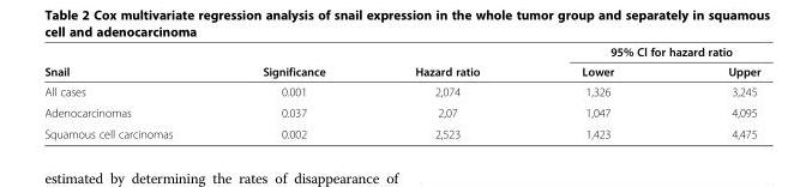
<table><thead><tr><td rowspan="2">Snail</td><td rowspan="2">Significance</td><td rowspan="2">Hazard ratio</td><td colspan="2">95% Cl for hazard ratio</td></tr><tr><td>Lower</td><td>Upper</td></tr></thead><tbody><tr><td>All cases</td><td>0.001</td><td>2,074</td><td>1,326</td><td>3,245</td></tr><tr><td>Adenocarcinomas</td><td>0.037</td><td>2,07</td><td>1,047</td><td>4,095</td></tr><tr><td>Squamous cell carcinomas</td><td>0.002</td><td>2,523</td><td>1,423</td><td>4,475</td></tr></tbody></table>